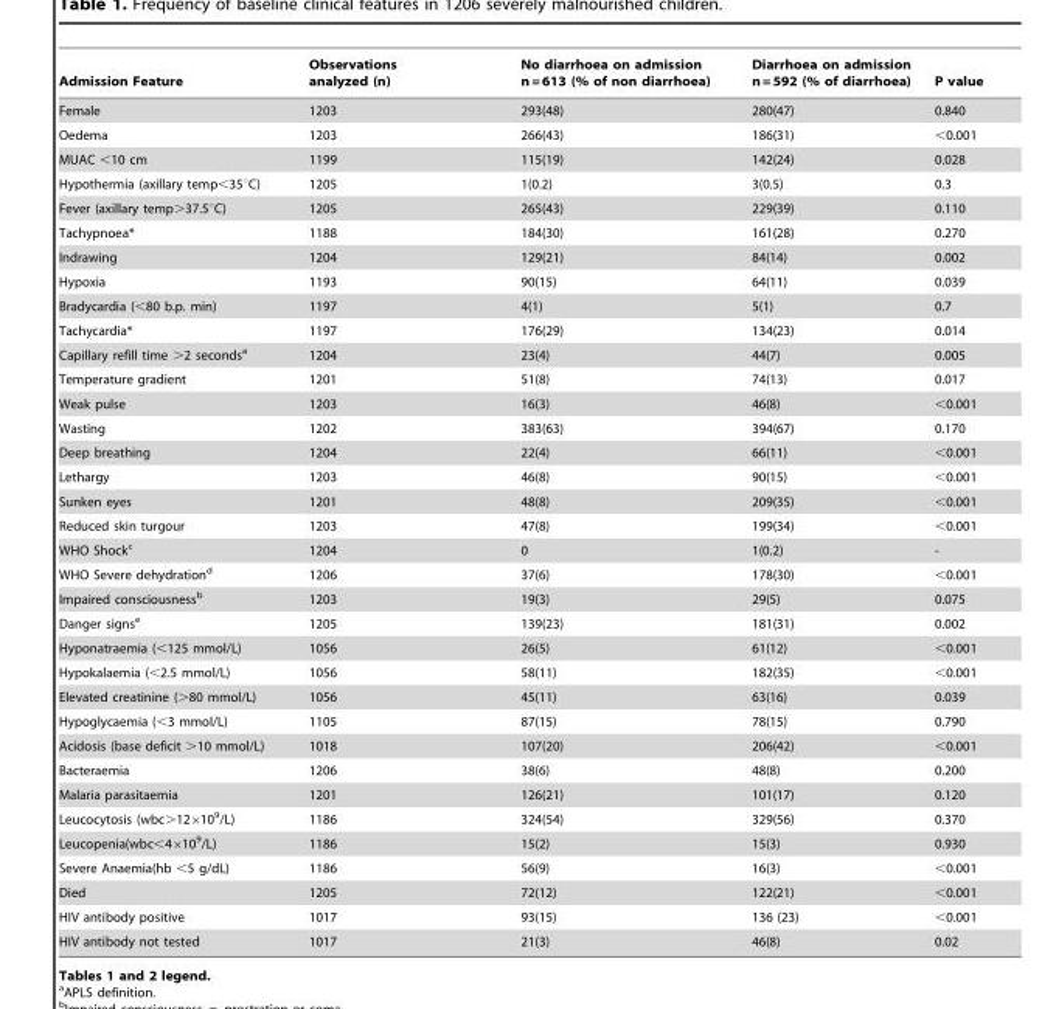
<table><thead><tr><td>Admission Feature</td><td>Observations analyzed (n)</td><td>No diarrhoea on admission n = 613 (% of non diarrhoea)</td><td>Diarrhoea on admission n = 592 (% of diarrhoea)</td><td>P value</td></tr></thead><tbody><tr><td>Female</td><td>1203</td><td>293(48)</td><td>280(47)</td><td>0.840</td></tr><tr><td>Oedema</td><td>1203</td><td>266(43)</td><td>186(31)</td><td>&lt;0.001</td></tr><tr><td>MUAC &lt;10 cm</td><td>1199</td><td>115(19)</td><td>142(24)</td><td>0.028</td></tr><tr><td>Hypothermia (axillary temp&lt;35°C)</td><td>1205</td><td>1(0.2)</td><td>3(0.5)</td><td>0.3</td></tr><tr><td>Fever (axillary temp&gt;37.5°C)</td><td>1205</td><td>265(43)</td><td>229(39)</td><td>0.110</td></tr><tr><td>Tachypnoea*</td><td>1188</td><td>184(30)</td><td>161(28)</td><td>0.270</td></tr><tr><td>Indrawing</td><td>1204</td><td>129(21)</td><td>84(14)</td><td>0.002</td></tr><tr><td>Hypoxia</td><td>1193</td><td>90(15)</td><td>64(11)</td><td>0.039</td></tr><tr><td>Bradycardia (&lt;80 b.p. min)</td><td>1197</td><td>4(1)</td><td>5(1)</td><td>0.7</td></tr><tr><td>Tachycardia*</td><td>1197</td><td>176(29)</td><td>134(23)</td><td>0.014</td></tr><tr><td>Capillary refill time &gt;2 seconds<sup>a</sup></td><td>1204</td><td>23(4)</td><td>44(7)</td><td>0.005</td></tr><tr><td>Temperature gradient</td><td>1201</td><td>51(8)</td><td>74(13)</td><td>0.017</td></tr><tr><td>Weak pulse</td><td>1203</td><td>16(3)</td><td>46(8)</td><td>&lt;0.001</td></tr><tr><td>Wasting</td><td>1202</td><td>383(63)</td><td>394(67)</td><td>0.170</td></tr><tr><td>Deep breathing</td><td>1204</td><td>22(4)</td><td>66(11)</td><td>&lt;0.001</td></tr><tr><td>Lethargy</td><td>1203</td><td>46(8)</td><td>90(15)</td><td>&lt;0.001</td></tr><tr><td>Sunken eyes</td><td>1201</td><td>48(8)</td><td>209(35)</td><td>&lt;0.001</td></tr><tr><td>Reduced skin turgour</td><td>1203</td><td>47(8)</td><td>199(34)</td><td>&lt;0.001</td></tr><tr><td>WHO Shock<sup>c</sup></td><td>1204</td><td>0</td><td>1(0.2)</td><td>-</td></tr><tr><td>WHO Severe dehydration<sup>d</sup></td><td>1206</td><td>37(6)</td><td>178(30)</td><td>&lt;0.001</td></tr><tr><td>Impaired consciousness<sup>b</sup></td><td>1203</td><td>19(3)</td><td>29(5)</td><td>0.075</td></tr><tr><td>Danger signs<sup>e</sup></td><td>1205</td><td>139(23)</td><td>181(31)</td><td>0.002</td></tr><tr><td>Hyponatraemia (&lt;125 mmol/L)</td><td>1056</td><td>26(5)</td><td>61(12)</td><td>&lt;0.001</td></tr><tr><td>Hypokalaemia (&lt;2.5 mmol/L)</td><td>1056</td><td>58(11)</td><td>182(35)</td><td>&lt;0.001</td></tr><tr><td>Elevated creatinine (&gt;80 mmol/L)</td><td>1056</td><td>45(11)</td><td>63(16)</td><td>0.039</td></tr><tr><td>Hypoglycaemia (&lt;3 mmol/L)</td><td>1105</td><td>87(15)</td><td>78(15)</td><td>0.790</td></tr><tr><td>Acidosis (base deficit &gt;10 mmol/L)</td><td>1018</td><td>107(20)</td><td>206(42)</td><td>&lt;0.001</td></tr><tr><td>Bacteraemia</td><td>1206</td><td>38(6)</td><td>48(8)</td><td>0.200</td></tr><tr><td>Malaria parasitaemia</td><td>1201</td><td>126(21)</td><td>101(17)</td><td>0.120</td></tr><tr><td>Leucocytosis (wbc&gt;12×10<sup>9</sup>/L)</td><td>1186</td><td>324(54)</td><td>329(56)</td><td>0.370</td></tr><tr><td>Leucopenia(wbc&lt;4×10<sup>9</sup>/L)</td><td>1186</td><td>15(2)</td><td>15(3)</td><td>0.930</td></tr><tr><td>Severe Anaemia(hb &lt;5 g/dL)</td><td>1186</td><td>56(9)</td><td>16(3)</td><td>&lt;0.001</td></tr><tr><td>Died</td><td>1205</td><td>72(12)</td><td>122(21)</td><td>&lt;0.001</td></tr><tr><td>HIV antibody positive</td><td>1017</td><td>93(15)</td><td>136 (23)</td><td>&lt;0.001</td></tr><tr><td>HIV antibody not tested</td><td>1017</td><td>21(3)</td><td>46(8)</td><td>0.02</td></tr></tbody></table>